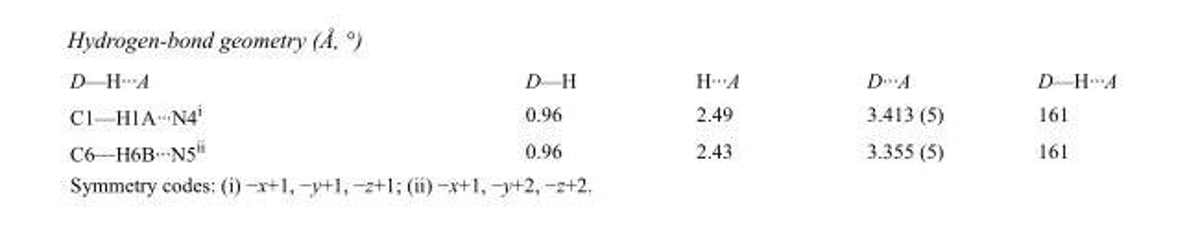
<table><tbody><tr><td>D—H···A</td><td>D—H</td><td>H···A</td><td>D···A</td><td>D—H···A</td></tr><tr><td>C1—H1A···N4<sup>i</sup></td><td>0.96</td><td>2.49</td><td>3.413 (5)</td><td>161</td></tr><tr><td>C6—H6B···N5<sup>ii</sup></td><td>0.96</td><td>2.43</td><td>3.355 (5)</td><td>161</td></tr></tbody></table>